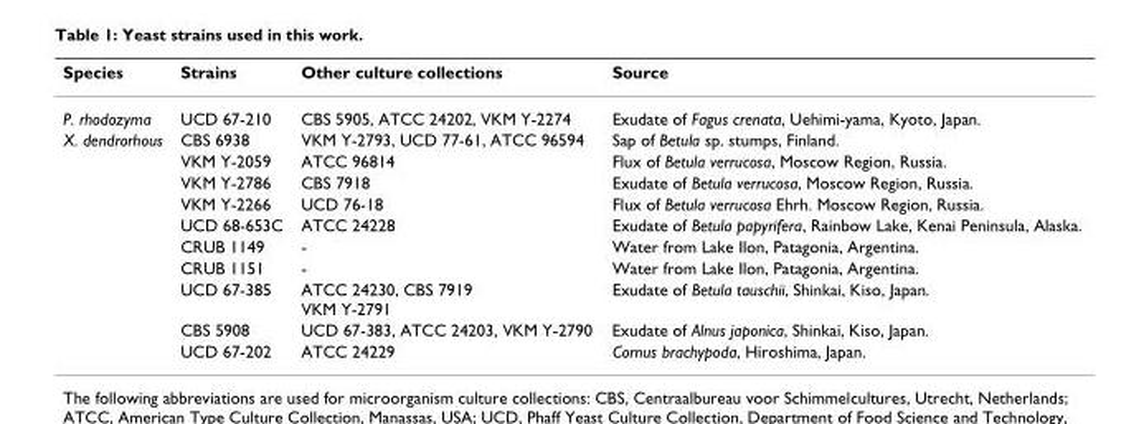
<table><thead><tr><td>Species</td><td>Strains</td><td>Other culture collections</td><td>Source</td></tr></thead><tbody><tr><td>P. rhodozyma</td><td>UCD 67-210</td><td>CBS 5905, ATCC 24202, VKM Y-2274</td><td>Exudate of Fagus crenata, Uehimi-yama, Kyoto, Japan.</td></tr><tr><td rowspan="10">X. dendrorhous</td><td>CBS 6938</td><td>VKM Y-2793, UCD 77-61, ATCC 96594</td><td>Sap of Betula sp. stumps, Finland.</td></tr><tr><td>VKM Y-2059</td><td>ATCC 96814</td><td>Flux of Betula verrucosa, Moscow Region, Russia.</td></tr><tr><td>VKM Y-2786</td><td>CBS 7918</td><td>Exudate of Betula verrucosa, Moscow Region, Russia.</td></tr><tr><td>VKM Y-2266</td><td>UCD 76-18</td><td>Flux of Betula verrucosa Ehrh. Moscow Region, Russia.</td></tr><tr><td>UCD 68-653C</td><td>ATCC 24228</td><td>Exudate of Betula papyrifera, Rainbow Lake, Kenai Peninsula, Alaska.</td></tr><tr><td>CRUB 1149</td><td>-</td><td>Water from Lake Ilon, Patagonia, Argentina.</td></tr><tr><td>CRUB 1151</td><td>-</td><td>Water from Lake Ilon, Patagonia, Argentina.</td></tr><tr><td>UCD 67-385</td><td>ATCC 24230, CBS 7919 VKM Y-2791</td><td>Exudate of Betula tauschii, Shinkai, Kiso, Japan.</td></tr><tr><td>CBS 5908</td><td>UCD 67-383, ATCC 24203, VKM Y-2790</td><td>Exudate of Alnus japonica, Shinkai, Kiso, Japan.</td></tr><tr><td>UCD 67-202</td><td>ATCC 24229</td><td>Cornus brachypoda, Hiroshima, Japan.</td></tr></tbody></table>